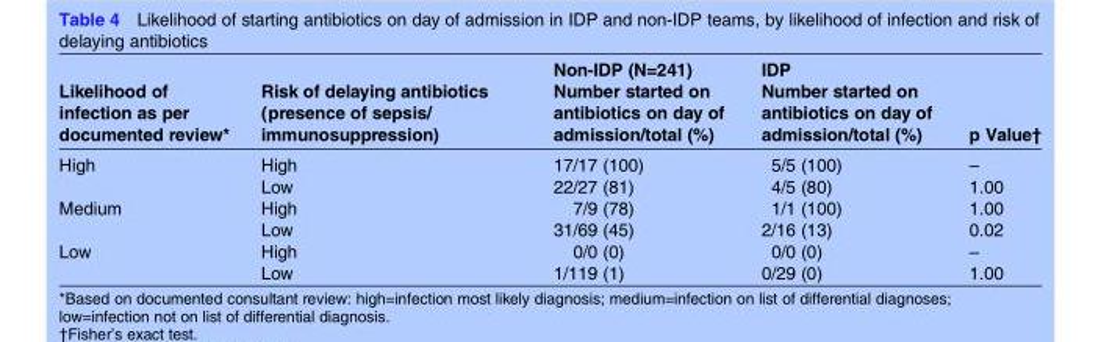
<table><thead><tr><td>Likelihood of infection as per documented review*</td><td>Risk of delaying antibiotics (presence of sepsis/ immunosuppression)</td><td>Non-IDP (N=241) Number started on antibiotics on day of admission/total (%)</td><td>IDP Number started on antibiotics on day of admission/total (%)</td><td>p Value†</td></tr></thead><tbody><tr><td rowspan="2">High</td><td>High</td><td>17/17 (100)</td><td>5/5 (100)</td><td>–</td></tr><tr><td>Low</td><td>22/27 (81)</td><td>4/5 (80)</td><td>1.00</td></tr><tr><td rowspan="2">Medium</td><td>High</td><td>7/9 (78)</td><td>1/1 (100)</td><td>1.00</td></tr><tr><td>Low</td><td>31/69 (45)</td><td>2/16 (13)</td><td>0.02</td></tr><tr><td rowspan="2">Low</td><td>High</td><td>0/0 (0)</td><td>0/0 (0)</td><td>–</td></tr><tr><td>Low</td><td>1/119 (1)</td><td>0/29 (0)</td><td>1.00</td></tr></tbody></table>